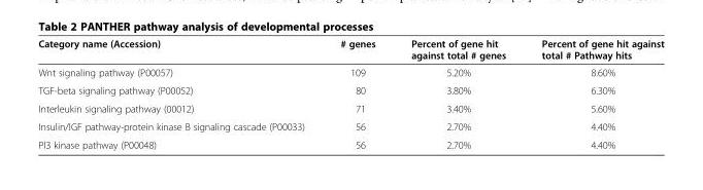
<table><thead><tr><td>Category name (Accession)</td><td># genes</td><td>Percent of gene hit against total # genes</td><td>Percent of gene hit against total # Pathway hits</td></tr></thead><tbody><tr><td>Wnt signaling pathway (P00057)</td><td>109</td><td>5.20%</td><td>8.60%</td></tr><tr><td>TGF-beta signaling pathway (P00052)</td><td>80</td><td>3.80%</td><td>6.30%</td></tr><tr><td>Interleukin signaling pathway (00012)</td><td>71</td><td>3.40%</td><td>5.60%</td></tr><tr><td>Insulin/IGF pathway-protein kinase B signaling cascade (P00033)</td><td>56</td><td>2.70%</td><td>4.40%</td></tr><tr><td>Pl3 kinase pathway (P00048)</td><td>56</td><td>2.70%</td><td>4.40%</td></tr></tbody></table>